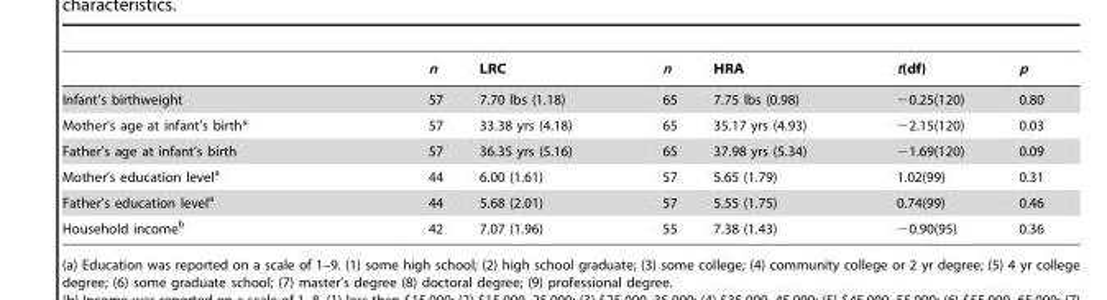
<table><thead><tr><td></td><td>n</td><td>LRC</td><td>n</td><td>HRA</td><td>t(df)</td><td>p</td></tr></thead><tbody><tr><td>Infant’s birthweight</td><td>57</td><td>7.70 lbs (1.18)</td><td>65</td><td>7.75 lbs (0.98)</td><td>−0.25(120)</td><td>0.80</td></tr><tr><td>Mother’s age at infant’s birth*</td><td>57</td><td>33.38 yrs (4.18)</td><td>65</td><td>35.17 yrs (4.93)</td><td>−2.15(120)</td><td>0.03</td></tr><tr><td>Father’s age at infant’s birth</td><td>57</td><td>36.35 yrs (5.16)</td><td>65</td><td>37.98 yrs (5.34)</td><td>−1.69(120)</td><td>0.09</td></tr><tr><td>Mother’s education level<sup>a</sup></td><td>44</td><td>6.00 (1.61)</td><td>57</td><td>5.65 (1.79)</td><td>1.02(99)</td><td>0.31</td></tr><tr><td>Father’s education level<sup>a</sup></td><td>44</td><td>5.68 (2.01)</td><td>57</td><td>5.55 (1.75)</td><td>0.74(99)</td><td>0.46</td></tr><tr><td>Household income<sup>b</sup></td><td>42</td><td>7.07 (1.96)</td><td>55</td><td>7.38 (1.43)</td><td>−0.90(95)</td><td>0.36</td></tr></tbody></table>